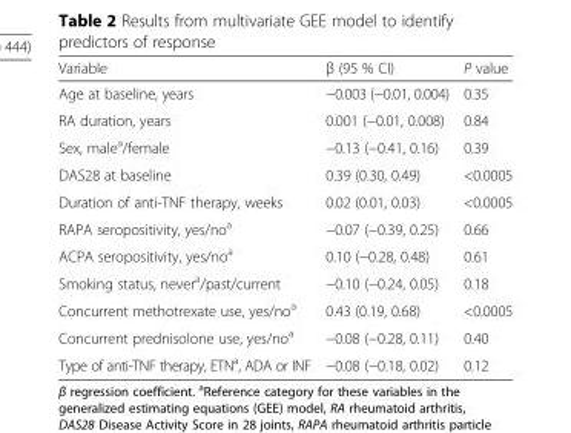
<table><thead><tr><td>Variable</td><td>β (95 % CI)</td><td>P value</td></tr></thead><tbody><tr><td>Age at baseline, years</td><td>−0.003 (−0.01, 0.004)</td><td>0.35</td></tr><tr><td>RA duration, years</td><td>0.001 (−0.01, 0.008)</td><td>0.84</td></tr><tr><td>Sex, male<sup>a</sup>/female</td><td>−0.13 (−0.41, 0.16)</td><td>0.39</td></tr><tr><td>DAS28 at baseline</td><td>0.39 (0.30, 0.49)</td><td>&lt;0.0005</td></tr><tr><td>Duration of anti-TNF therapy, weeks</td><td>0.02 (0.01, 0.03)</td><td>&lt;0.0005</td></tr><tr><td>RAPA seropositivity, yes/no<sup>a</sup></td><td>−0.07 (−0.39, 0.25)</td><td>0.66</td></tr><tr><td>ACPA seropositivity, yes/no<sup>a</sup></td><td>0.10 (−0.28, 0.48)</td><td>0.61</td></tr><tr><td>Smoking status, never<sup>a</sup>/past/current</td><td>−0.10 (−0.24, 0.05)</td><td>0.18</td></tr><tr><td>Concurrent methotrexate use, yes/no<sup>a</sup></td><td>0.43 (0.19, 0.68)</td><td>&lt;0.0005</td></tr><tr><td>Concurrent prednisolone use, yes/no<sup>a</sup></td><td>−0.08 (−0.28, 0.11)</td><td>0.40</td></tr><tr><td>Type of anti-TNF therapy, ETN<sup>a</sup>, ADA or INF</td><td>−0.08 (−0.18, 0.02)</td><td>0.12</td></tr></tbody></table>